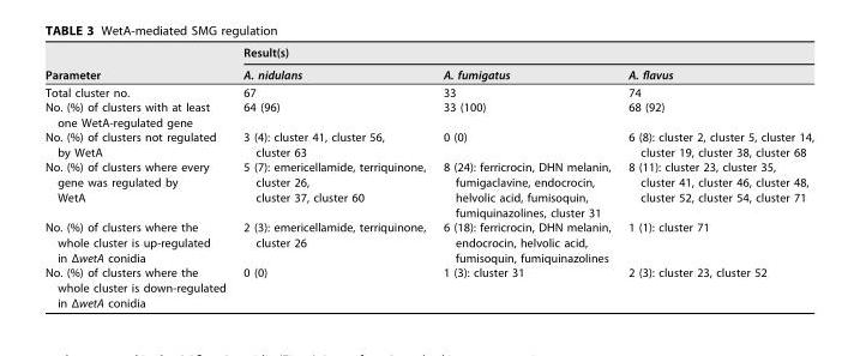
<table><thead><tr><td rowspan="2">Parameter</td><td colspan="3">Result(s)</td></tr><tr><td>A. nidulans</td><td>A. fumigatus</td><td>A. flavus</td></tr></thead><tbody><tr><td>Total cluster no.</td><td>67</td><td>33</td><td>74</td></tr><tr><td>No. (%) of clusters with at least one WetA-regulated gene</td><td>64 (96)</td><td>33 (100)</td><td>68 (92)</td></tr><tr><td>No. (%) of clusters not regulated by WetA</td><td>3 (4): cluster 41, cluster 56, cluster 63</td><td>0 (0)</td><td>6 (8): cluster 2, cluster 5, cluster 14, cluster 19, cluster 38, cluster 68</td></tr><tr><td>No. (%) of clusters where every gene was regulated by WetA</td><td>5 (7): emericellamide, terriquinone, cluster 26, cluster 37, cluster 60</td><td>8 (24): ferricrocin, DHN melanin, fumigaclavine, endocrocin, helvolic acid, fumisoquin, fumiquinazolines, cluster 31</td><td>8 (11): cluster 23, cluster 35, cluster 41, cluster 46, cluster 48, cluster 52, cluster 54, cluster 71</td></tr><tr><td>No. (%) of clusters where the whole cluster is up-regulated in ΔwetA conidia</td><td>2 (3): emericellamide, terriquinone, cluster 26</td><td>6 (18): ferricrocin, DHN melanin, endocrocin, helvolic acid, fumisoquin, fumiquinazolines</td><td>1 (1): cluster 71</td></tr><tr><td>No. (%) of clusters where the whole cluster is down-regulated in ΔwetA conidia</td><td>0 (0)</td><td>1 (3): cluster 31</td><td>2 (3): cluster 23, cluster 52</td></tr></tbody></table>